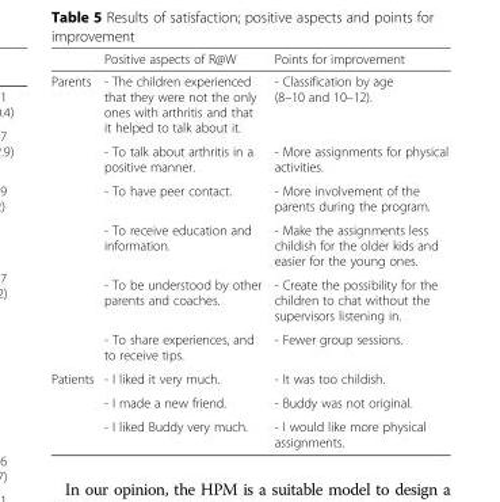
<table><thead><tr><td></td><td>Positive aspects of R@W</td><td>Points for improvement</td></tr></thead><tbody><tr><td rowspan="6">Parents</td><td>- The children experienced that they were not the only ones with arthritis and that it helped to talk about it.</td><td>- Classification by age (8–10 and 10–12).</td></tr><tr><td>- To talk about arthritis in a positive manner.</td><td>- More assignments for physical activities.</td></tr><tr><td>- To have peer contact.</td><td>- More involvement of the parents during the program.</td></tr><tr><td>- To receive education and information.</td><td>- Make the assignments less childish for the older kids and easier for the young ones.</td></tr><tr><td>- To be understood by other parents and coaches.</td><td>- Create the possibility for the children to chat without the supervisors listening in.</td></tr><tr><td>- To share experiences, and to receive tips.</td><td>- Fewer group sessions.</td></tr><tr><td rowspan="3">Patients</td><td>- I liked it very much.</td><td>- It was too childish.</td></tr><tr><td>- I made a new friend.</td><td>- Buddy was not original.</td></tr><tr><td>- I liked Buddy very much.</td><td>- I would like more physical assignments.</td></tr></tbody></table>